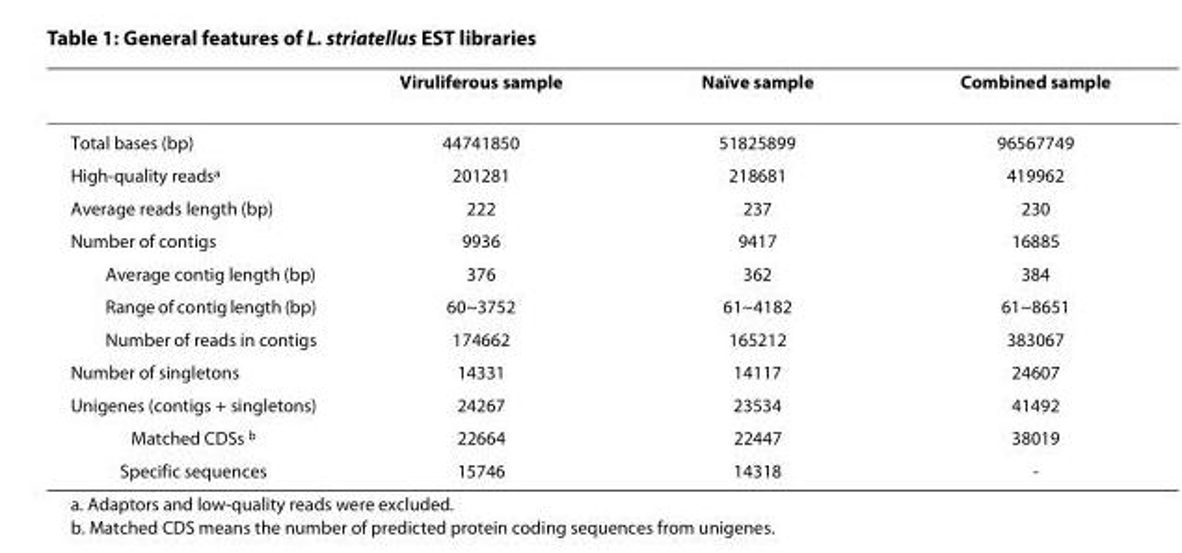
<table><thead><tr><td></td><td>Viruliferous sample</td><td>Naïve sample</td><td>Combined sample</td></tr></thead><tbody><tr><td>Total bases (bp)</td><td>44741850</td><td>51825899</td><td>96567749</td></tr><tr><td>High-quality reads<sup>a</sup></td><td>201281</td><td>218681</td><td>419962</td></tr><tr><td>Average reads length (bp)</td><td>222</td><td>237</td><td>230</td></tr><tr><td>Number of contigs</td><td>9936</td><td>9417</td><td>16885</td></tr><tr><td>Average contig length (bp)</td><td>376</td><td>362</td><td>384</td></tr><tr><td>Range of contig length (bp)</td><td>60~3752</td><td>61~4182</td><td>61~8651</td></tr><tr><td>Number of reads in contigs</td><td>174662</td><td>165212</td><td>383067</td></tr><tr><td>Number of singletons</td><td>14331</td><td>14117</td><td>24607</td></tr><tr><td>Unigenes (contigs + singletons)</td><td>24267</td><td>23534</td><td>41492</td></tr><tr><td>Matched CDSs <sup>b</sup></td><td>22664</td><td>22447</td><td>38019</td></tr><tr><td>Specific sequences</td><td>15746</td><td>14318</td><td>-</td></tr></tbody></table>